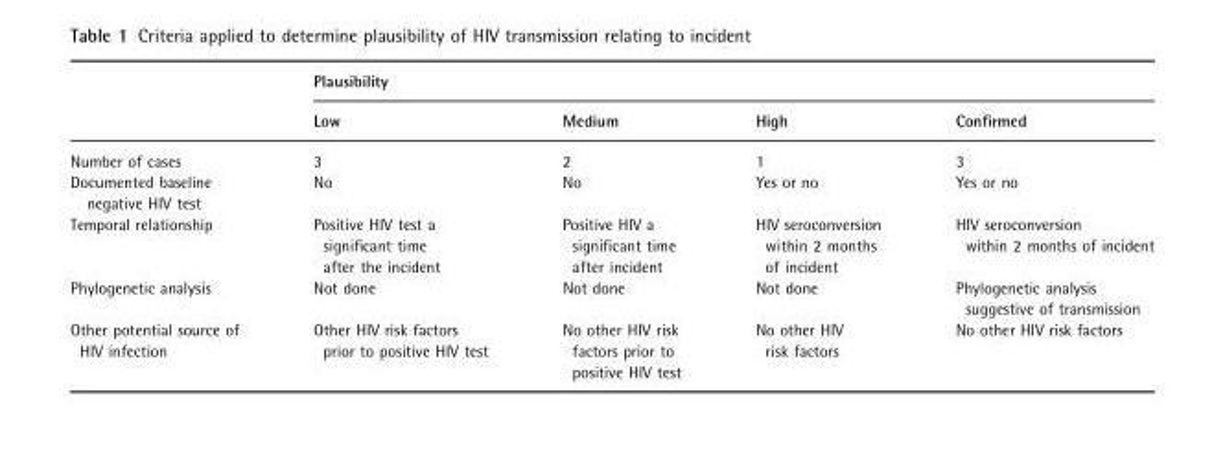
<table><thead><tr><td rowspan="2"></td><td colspan="4">Plausibility</td></tr><tr><td>Low</td><td>Medium</td><td>High</td><td>Confirmed</td></tr></thead><tbody><tr><td>Number of cases</td><td>3</td><td>2</td><td>1</td><td>3</td></tr><tr><td>Documented baseline negative HIV test</td><td>No</td><td>No</td><td>Yes or no</td><td>Yes or no</td></tr><tr><td>Temporal relationship</td><td>Positive HIV test a significant time after the incident</td><td>Positive HIV a significant time after incident</td><td>HIV seroconversion within 2 months of incident</td><td>HIV seroconversion within 2 months of incident</td></tr><tr><td>Phylogenetic analysis</td><td>Not done</td><td>Not done</td><td>Not done</td><td>Phylogenetic analysis suggestive of transmission</td></tr><tr><td>Other potential source of HIV infection</td><td>Other HIV risk factors prior to positive HIV test</td><td>No other HIV risk factors prior to positive HIV test</td><td>No other HIV risk factors</td><td>No other HIV risk factors</td></tr></tbody></table>